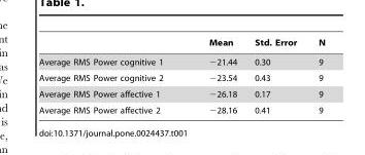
<table><thead><tr><td></td><td>Mean</td><td>Std. Error</td><td>N</td></tr></thead><tbody><tr><td>Average RMS Power cognitive 1</td><td>−21.44</td><td>0.30</td><td>9</td></tr><tr><td>Average RMS Power cognitive 2</td><td>−23.54</td><td>0.43</td><td>9</td></tr><tr><td>Average RMS Power affective 1</td><td>−26.18</td><td>0.17</td><td>9</td></tr><tr><td>Average RMS Power affective 2</td><td>−28.16</td><td>0.41</td><td>9</td></tr></tbody></table>